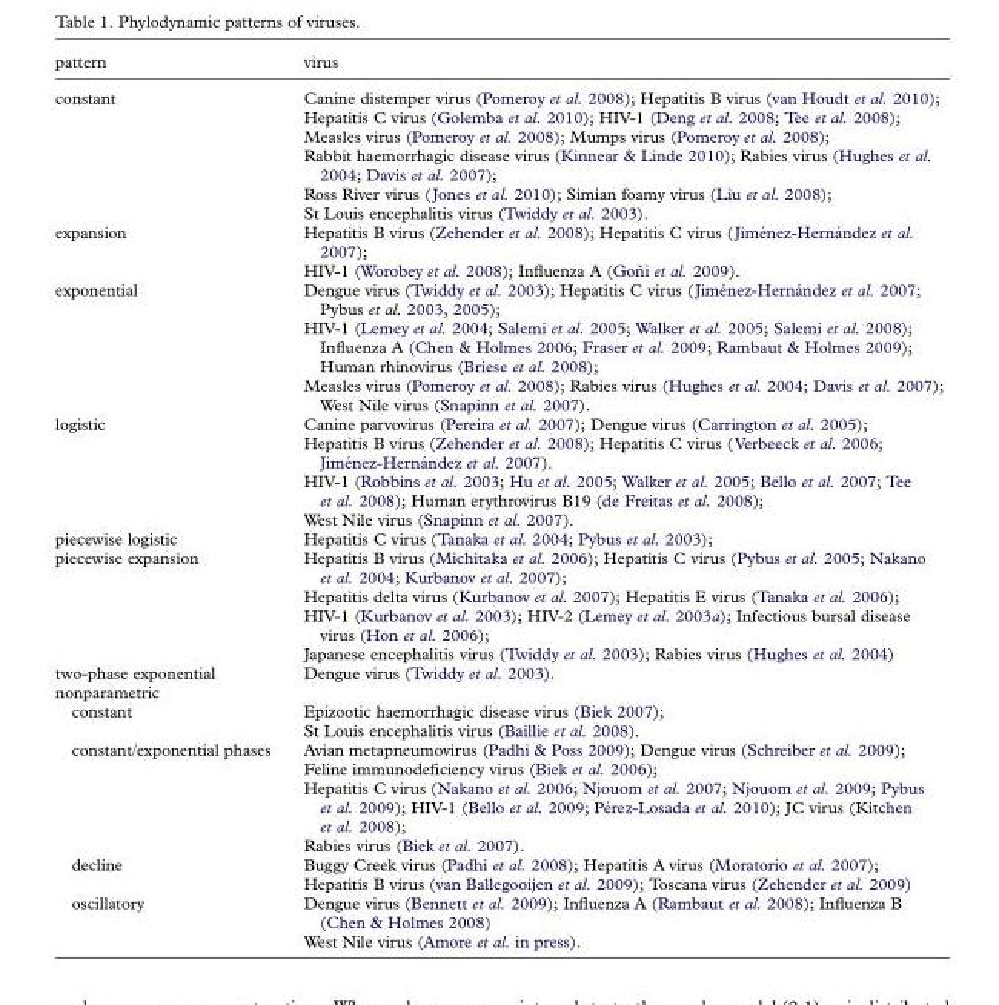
<table><thead><tr><td>pattern</td><td>virus</td></tr></thead><tbody><tr><td rowspan="6">constant</td><td>Canine distemper virus (Pomeroy et al. 2008); Hepatitis B virus (van Houdt et al. 2010);</td></tr><tr><td>Hepatitis C virus (Golemba et al. 2010); HIV-1 (Deng et al. 2008; Tee et al. 2008);</td></tr><tr><td>Measles virus (Pomeroy et al. 2008); Mumps virus (Pomeroy et al. 2008);</td></tr><tr><td>Rabbit haemorrhagic disease virus (Kinnear &amp; Linde 2010); Rabies virus (Hughes et al. 2004; Davis et al. 2007);</td></tr><tr><td>Ross River virus (Jones et al. 2010); Simian foamy virus (Liu et al. 2008);</td></tr><tr><td>St Louis encephalitis virus (Twiddy et al. 2003).</td></tr><tr><td rowspan="2">expansion</td><td>Hepatitis B virus (Zehender et al. 2008); Hepatitis C virus (Jime´nez-Herna´ndez et al. 2007);</td></tr><tr><td>HIV-1 (Worobey et al. 2008); Influenza A (Gon˜i et al. 2009).</td></tr><tr><td rowspan="3">exponential</td><td>Dengue virus (Twiddy et al. 2003); Hepatitis C virus (Jime´nez-Herna´ndez et al. 2007; Pybus et al. 2003, 2005);</td></tr><tr><td>HIV-1 (Lemey et al. 2004; Salemi et al. 2005; Walker et al. 2005; Salemi et al. 2008); Influenza A (Chen &amp; Holmes 2006; Fraser et al. 2009; Rambaut &amp; Holmes 2009); Human rhinovirus (Briese et al. 2008);</td></tr><tr><td>Measles virus (Pomeroy et al. 2008); Rabies virus (Hughes et al. 2004; Davis et al. 2007); West Nile virus (Snapinn et al. 2007).</td></tr><tr><td rowspan="4">logistic</td><td>Canine parvovirus (Pereira et al. 2007); Dengue virus (Carrington et al. 2005);</td></tr><tr><td>Hepatitis B virus (Zehender et al. 2008); Hepatitis C virus (Verbeeck et al. 2006; Jime´nez-Herna´ndez et al. 2007).</td></tr><tr><td>HIV-1 (Robbins et al. 2003; Hu et al. 2005; Walker et al. 2005; Bello et al. 2007; Tee et al. 2008); Human erythrovirus B19 (de Freitas et al. 2008);</td></tr><tr><td>West Nile virus (Snapinn et al. 2007).</td></tr><tr><td>piecewise logistic</td><td>Hepatitis C virus (Tanaka et al. 2004; Pybus et al. 2003);</td></tr><tr><td rowspan="4">piecewise expansion</td><td>Hepatitis B virus (Michitaka et al. 2006); Hepatitis C virus (Pybus et al. 2005; Nakano et al. 2004; Kurbanov et al. 2007);</td></tr><tr><td>Hepatitis delta virus (Kurbanov et al. 2007); Hepatitis E virus (Tanaka et al. 2006);</td></tr><tr><td>HIV-1 (Kurbanov et al. 2003); HIV-2 (Lemey et al. 2003a); Infectious bursal disease virus (Hon et al. 2006);</td></tr><tr><td>Japanese encephalitis virus (Twiddy et al. 2003); Rabies virus (Hughes et al. 2004)</td></tr><tr><td>two-phase exponential</td><td>Dengue virus (Twiddy et al. 2003).</td></tr><tr><td colspan="2">nonparametric</td></tr><tr><td rowspan="2">constant</td><td>Epizootic haemorrhagic disease virus (Biek 2007);</td></tr><tr><td>St Louis encephalitis virus (Baillie et al. 2008).</td></tr><tr><td rowspan="4">constant/exponential phases</td><td>Avian metapneumovirus (Padhi &amp; Poss 2009); Dengue virus (Schreiber et al. 2009);</td></tr><tr><td>Feline immunodeficiency virus (Biek et al. 2006);</td></tr><tr><td>Hepatitis C virus (Nakano et al. 2006; Njouom et al. 2007; Njouom et al. 2009; Pybus et al. 2009); HIV-1 (Bello et al. 2009; Pe´rez-Losada et al. 2010); JC virus (Kitchen et al. 2008);</td></tr><tr><td>Rabies virus (Biek et al. 2007).</td></tr><tr><td rowspan="2">decline</td><td>Buggy Creek virus (Padhi et al. 2008); Hepatitis A virus (Moratorio et al. 2007);</td></tr><tr><td>Hepatitis B virus (van Ballegooijen et al. 2009); Toscana virus (Zehender et al. 2009)</td></tr><tr><td rowspan="2">oscillatory</td><td>Dengue virus (Bennett et al. 2009); Influenza A (Rambaut et al. 2008); Influenza B (Chen &amp; Holmes 2008)</td></tr><tr><td>West Nile virus (Amore et al. in press).</td></tr></tbody></table>